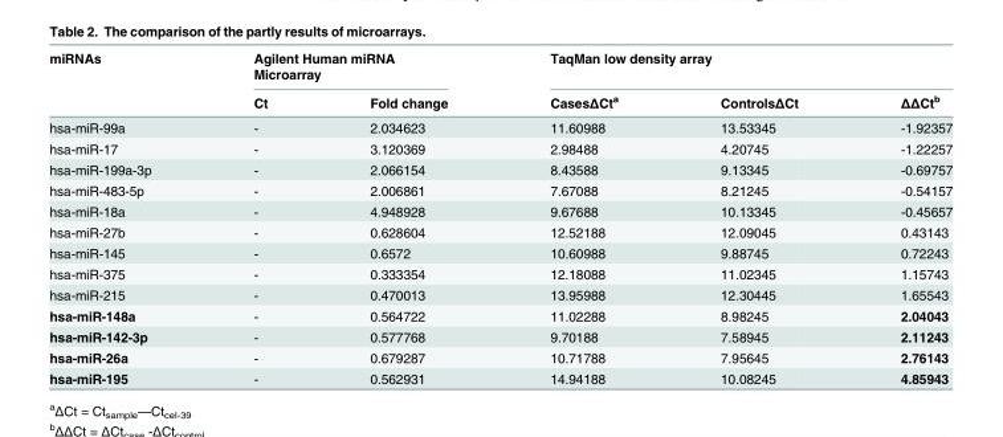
<table><thead><tr><td rowspan="2">miRNAs</td><td colspan="2">Agilent Human miRNA Microarray</td><td colspan="3">TaqMan low density array</td></tr><tr><td>Ct</td><td>Fold change</td><td>CasesΔCt<sup>a</sup></td><td>ControlsΔCt</td><td>ΔΔCt<sup>b</sup></td></tr></thead><tbody><tr><td>hsa-miR-99a</td><td>-</td><td>2.034623</td><td>11.60988</td><td>13.53345</td><td>-1.92357</td></tr><tr><td>hsa-miR-17</td><td>-</td><td>3.120369</td><td>2.98488</td><td>4.20745</td><td>-1.22257</td></tr><tr><td>hsa-miR-199a-3p</td><td>-</td><td>2.066154</td><td>8.43588</td><td>9.13345</td><td>-0.69757</td></tr><tr><td>hsa-miR-483-5p</td><td>-</td><td>2.006861</td><td>7.67088</td><td>8.21245</td><td>-0.54157</td></tr><tr><td>hsa-miR-18a</td><td>-</td><td>4.948928</td><td>9.67688</td><td>10.13345</td><td>-0.45657</td></tr><tr><td>hsa-miR-27b</td><td>-</td><td>0.628604</td><td>12.52188</td><td>12.09045</td><td>0.43143</td></tr><tr><td>hsa-miR-145</td><td>-</td><td>0.6572</td><td>10.60988</td><td>9.88745</td><td>0.72243</td></tr><tr><td>hsa-miR-375</td><td>-</td><td>0.333354</td><td>12.18088</td><td>11.02345</td><td>1.15743</td></tr><tr><td>hsa-miR-215</td><td>-</td><td>0.470013</td><td>13.95988</td><td>12.30445</td><td>1.65543</td></tr><tr><td>hsa-miR-148a</td><td>-</td><td>0.564722</td><td>11.02288</td><td>8.98245</td><td>2.04043</td></tr><tr><td>hsa-miR-142-3p</td><td>-</td><td>0.577768</td><td>9.70188</td><td>7.58945</td><td>2.11243</td></tr><tr><td>hsa-miR-26a</td><td>-</td><td>0.679287</td><td>10.71788</td><td>7.95645</td><td>2.76143</td></tr><tr><td>hsa-miR-195</td><td>-</td><td>0.562931</td><td>14.94188</td><td>10.08245</td><td>4.85943</td></tr></tbody></table>